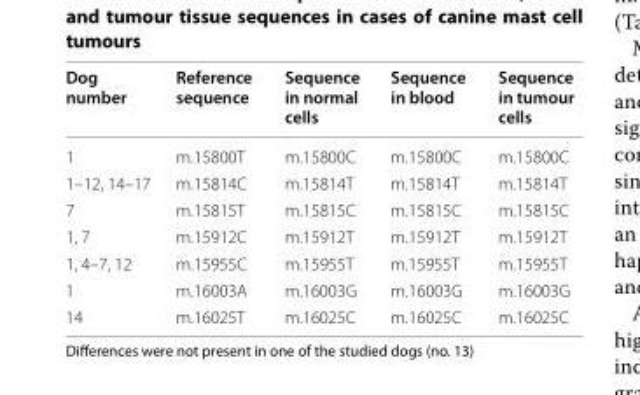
<table><thead><tr><td>Dog number</td><td>Reference sequence</td><td>Sequence in normal cells</td><td>Sequence in blood</td><td>Sequence in tumour cells</td></tr></thead><tbody><tr><td>1</td><td>m.15800T</td><td>m.15800C</td><td>m.15800C</td><td>m.15800C</td></tr><tr><td>1–12, 14–17</td><td>m.15814C</td><td>m.15814T</td><td>m.15814T</td><td>m.15814T</td></tr><tr><td>7</td><td>m.15815T</td><td>m.15815C</td><td>m.15815C</td><td>m.15815C</td></tr><tr><td>1, 7</td><td>m.15912C</td><td>m.15912T</td><td>m.15912T</td><td>m.15912T</td></tr><tr><td>1, 4–7, 12</td><td>m.15955C</td><td>m.15955T</td><td>m.15955T</td><td>m.15955T</td></tr><tr><td>1</td><td>m.16003A</td><td>m.16003G</td><td>m.16003G</td><td>m.16003G</td></tr><tr><td>14</td><td>m.16025T</td><td>m.16025C</td><td>m.16025C</td><td>m.16025C</td></tr></tbody></table>